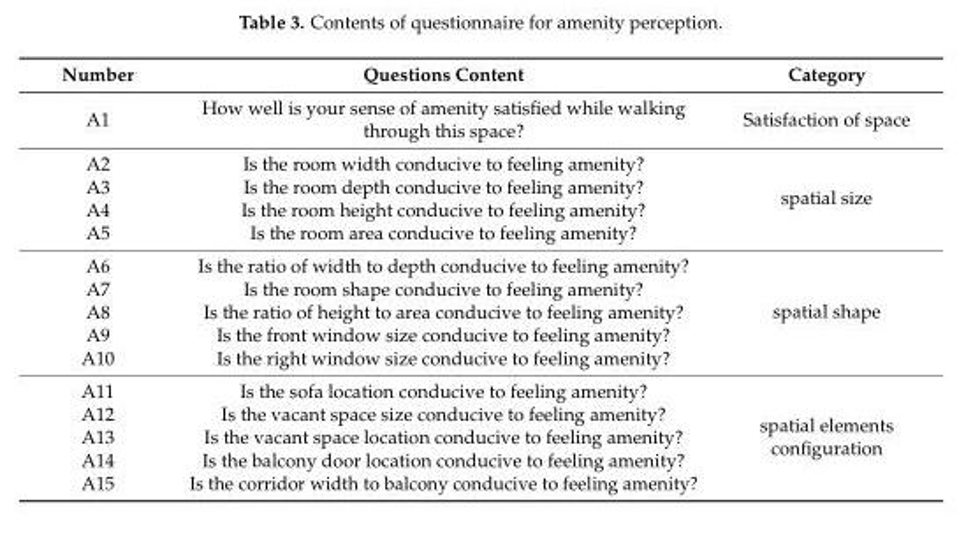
<table><thead><tr><td>Number</td><td>Questions Content</td><td>Category</td></tr></thead><tbody><tr><td>A1</td><td>How well is your sense of amenity satisfied while walking through this space?</td><td>Satisfaction of space</td></tr><tr><td>A2</td><td>Is the room width conducive to feeling amenity?</td><td rowspan="4">spatial size</td></tr><tr><td>A3</td><td>Is the room depth conducive to feeling amenity?</td></tr><tr><td>A4</td><td>Is the room height conducive to feeling amenity?</td></tr><tr><td>A5</td><td>Is the room area conducive to feeling amenity?</td></tr><tr><td>A6</td><td>Is the ratio of width to depth conducive to feeling amenity?</td><td rowspan="5">spatial shape</td></tr><tr><td>A7</td><td>Is the room shape conducive to feeling amenity?</td></tr><tr><td>A8</td><td>Is the ratio of height to area conducive to feeling amenity?</td></tr><tr><td>A9</td><td>Is the front window size conducive to feeling amenity?</td></tr><tr><td>A10</td><td>Is the right window size conducive to feeling amenity?</td></tr><tr><td>A11</td><td>Is the sofa location conducive to feeling amenity?</td><td rowspan="5">spatial elements configuration</td></tr><tr><td>A12</td><td>Is the vacant space size conducive to feeling amenity?</td></tr><tr><td>A13</td><td>Is the vacant space location conducive to feeling amenity?</td></tr><tr><td>A14</td><td>Is the balcony door location conducive to feeling amenity?</td></tr><tr><td>A15</td><td>Is the corridor width to balcony conducive to feeling amenity?</td></tr></tbody></table>